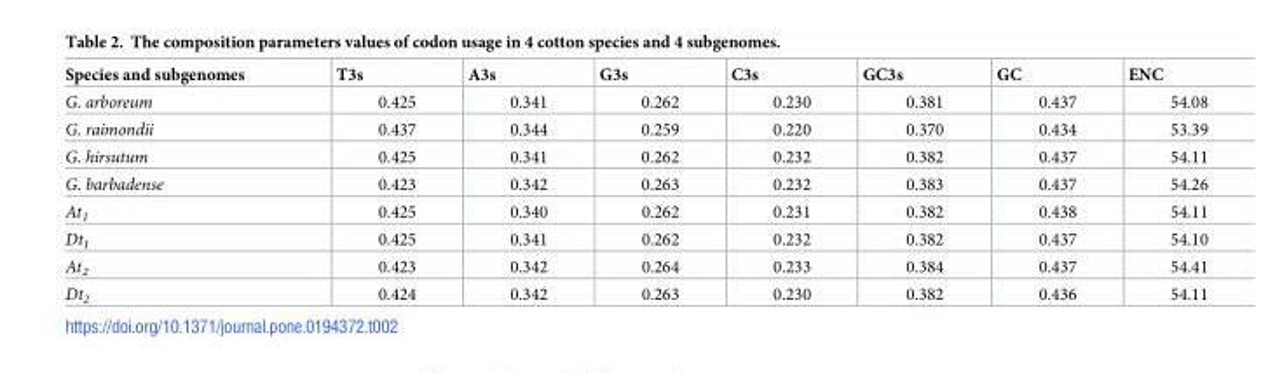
<table><thead><tr><td>Species and subgenomes</td><td>T3s</td><td>A3s</td><td>G3s</td><td>C3s</td><td>GC3s</td><td>GC</td><td>ENC</td></tr></thead><tbody><tr><td>G. arboreum</td><td>0.425</td><td>0.341</td><td>0.262</td><td>0.230</td><td>0.381</td><td>0.437</td><td>54.08</td></tr><tr><td>G. raimondii</td><td>0.437</td><td>0.344</td><td>0.259</td><td>0.220</td><td>0.370</td><td>0.434</td><td>53.39</td></tr><tr><td>G. hirsutum</td><td>0.425</td><td>0.341</td><td>0.262</td><td>0.232</td><td>0.382</td><td>0.437</td><td>54.11</td></tr><tr><td>G. barbadense</td><td>0.423</td><td>0.342</td><td>0.263</td><td>0.232</td><td>0.383</td><td>0.437</td><td>54.26</td></tr><tr><td>At<sub>1</sub></td><td>0.425</td><td>0.340</td><td>0.262</td><td>0.231</td><td>0.382</td><td>0.438</td><td>54.11</td></tr><tr><td>Dt<sub>1</sub></td><td>0.425</td><td>0.341</td><td>0.262</td><td>0.232</td><td>0.382</td><td>0.437</td><td>54.10</td></tr><tr><td>At<sub>2</sub></td><td>0.423</td><td>0.342</td><td>0.264</td><td>0.233</td><td>0.384</td><td>0.437</td><td>54.41</td></tr><tr><td>Dt<sub>2</sub></td><td>0.424</td><td>0.342</td><td>0.263</td><td>0.230</td><td>0.382</td><td>0.436</td><td>54.11</td></tr></tbody></table>